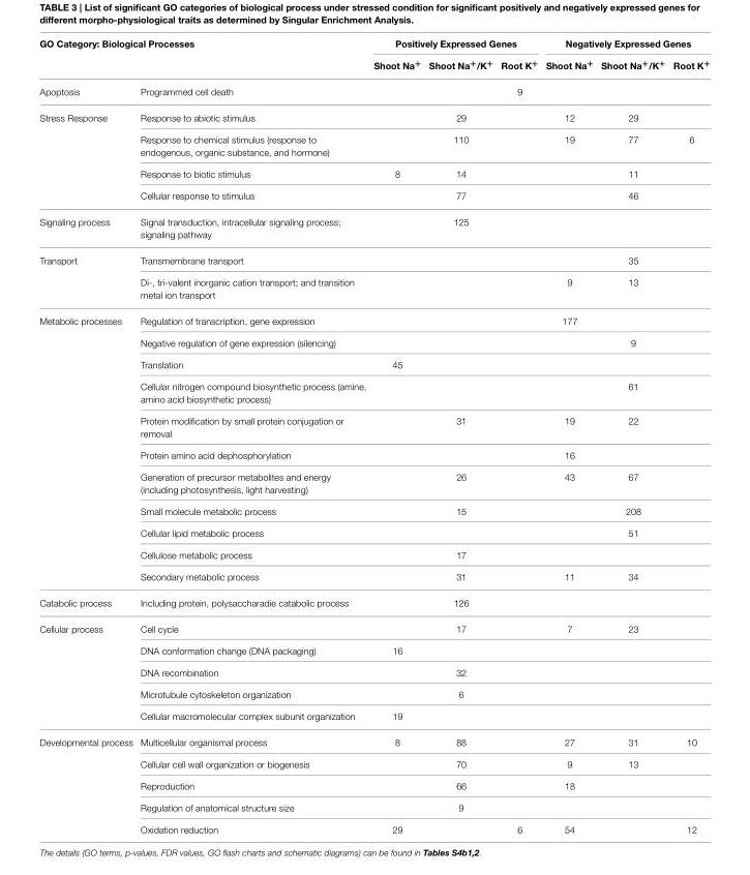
<table><thead><tr><td colspan="2">GO Category: Biological Processes</td><td colspan="3">Positively Expressed Genes</td><td colspan="3">Negatively Expressed Genes</td></tr><tr><td></td><td></td><td>Shoot Na<sup>+</sup></td><td>Shoot Na<sup>+</sup>/K<sup>+</sup></td><td>Root K<sup>+</sup></td><td>Shoot Na<sup>+</sup></td><td>Shoot Na<sup>+</sup>/K<sup>+</sup></td><td>Root K<sup>+</sup></td></tr></thead><tbody><tr><td>Apoptosis</td><td>Programmed cell death</td><td></td><td></td><td>9</td><td></td><td></td><td></td></tr><tr><td rowspan="4">Stress Response</td><td>Response to abiotic stimulus</td><td></td><td>29</td><td></td><td>12</td><td>29</td><td></td></tr><tr><td>Response to chemical stimulus (response to endogenous, organic substance, and hormone)</td><td></td><td>110</td><td></td><td>19</td><td>77</td><td>6</td></tr><tr><td>Response to biotic stimulus</td><td>8</td><td>14</td><td></td><td></td><td>11</td><td></td></tr><tr><td>Cellular response to stimulus</td><td></td><td>77</td><td></td><td></td><td>46</td><td></td></tr><tr><td>Signaling process</td><td>Signal transduction, intracellular signaling process; signaling pathway</td><td></td><td>125</td><td></td><td></td><td></td><td></td></tr><tr><td rowspan="2">Transport</td><td>Transmembrane transport</td><td></td><td></td><td></td><td></td><td>35</td><td></td></tr><tr><td>Di-, tri-valent inorganic cation transport; and transition metal ion transport</td><td></td><td></td><td></td><td>9</td><td>13</td><td></td></tr><tr><td rowspan="11">Metabolic processes</td><td>Regulation of transcription, gene expression</td><td></td><td></td><td></td><td>177</td><td></td><td></td></tr><tr><td>Negative regulation of gene expression (silencing)</td><td></td><td></td><td></td><td></td><td>9</td><td></td></tr><tr><td>Translation</td><td>45</td><td></td><td></td><td></td><td></td><td></td></tr><tr><td>Cellular nitrogen compound biosynthetic process (amine, amino acid biosynthetic process)</td><td></td><td></td><td></td><td></td><td>61</td><td></td></tr><tr><td>Protein modification by small protein conjugation or removal</td><td></td><td>31</td><td></td><td>19</td><td>22</td><td></td></tr><tr><td>Protein amino acid dephosphorylation</td><td></td><td></td><td></td><td>16</td><td></td><td></td></tr><tr><td>Generation of precursor metabolites and energy (including photosynthesis, light harvesting)</td><td></td><td>26</td><td></td><td>43</td><td>67</td><td></td></tr><tr><td>Small molecule metabolic process</td><td></td><td>15</td><td></td><td></td><td>208</td><td></td></tr><tr><td>Cellular lipid metabolic process</td><td></td><td></td><td></td><td></td><td>51</td><td></td></tr><tr><td>Cellulose metabolic process</td><td></td><td>17</td><td></td><td></td><td></td><td></td></tr><tr><td>Secondary metabolic process</td><td></td><td>31</td><td></td><td>11</td><td>34</td><td></td></tr><tr><td>Catabolic process</td><td>Including protein, polysaccharadie catabolic process</td><td></td><td>126</td><td></td><td></td><td></td><td></td></tr><tr><td rowspan="5">Cellular process</td><td>Cell cycle</td><td></td><td>17</td><td></td><td>7</td><td>23</td><td></td></tr><tr><td>DNA conformation change (DNA packaging)</td><td>16</td><td></td><td></td><td></td><td></td><td></td></tr><tr><td>DNA recombination</td><td></td><td>32</td><td></td><td></td><td></td><td></td></tr><tr><td>Microtubule cytoskeleton organization</td><td></td><td>6</td><td></td><td></td><td></td><td></td></tr><tr><td>Cellular macromolecular complex subunit organization</td><td>19</td><td></td><td></td><td></td><td></td><td></td></tr><tr><td rowspan="5">Developmental process</td><td>Multicellular organismal process</td><td>8</td><td>88</td><td></td><td>27</td><td>31</td><td>10</td></tr><tr><td>Cellular cell wall organization or biogenesis</td><td></td><td>70</td><td></td><td>9</td><td>13</td><td></td></tr><tr><td>Reproduction</td><td></td><td>66</td><td></td><td>18</td><td></td><td></td></tr><tr><td>Regulation of anatomical structure size</td><td></td><td>9</td><td></td><td></td><td></td><td></td></tr><tr><td>Oxidation reduction</td><td>29</td><td></td><td>6</td><td>54</td><td></td><td>12</td></tr></tbody></table>